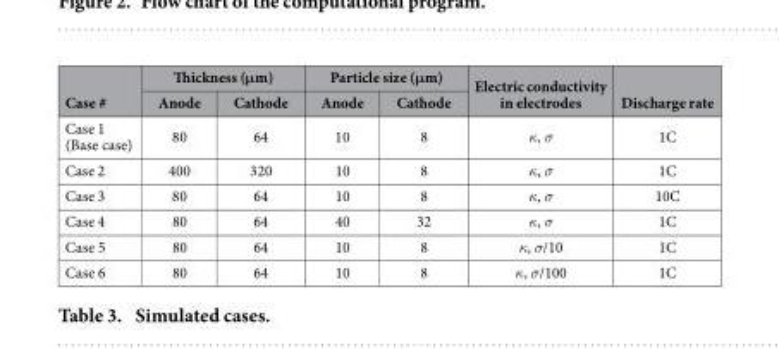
<table><thead><tr><td rowspan="2">Case #</td><td colspan="2">Thickness (μm)</td><td colspan="2">Particle size (μm)</td><td rowspan="2">Electric conductivity in electrodes</td><td rowspan="2">Discharge rate</td></tr><tr><td>Anode</td><td>Cathode</td><td>Anode</td><td>Cathode</td></tr></thead><tbody><tr><td>Case 1 (Base case)</td><td>80</td><td>64</td><td>10</td><td>8</td><td>κ, σ</td><td>1C</td></tr><tr><td>Case 2</td><td>400</td><td>320</td><td>10</td><td>8</td><td>κ, σ</td><td>1C</td></tr><tr><td>Case 3</td><td>80</td><td>64</td><td>10</td><td>8</td><td>κ, σ</td><td>10C</td></tr><tr><td>Case 4</td><td>80</td><td>64</td><td>40</td><td>32</td><td>κ, σ</td><td>1C</td></tr><tr><td>Case 5</td><td>80</td><td>64</td><td>10</td><td>8</td><td>κ, σ/10</td><td>1C</td></tr><tr><td>Case 6</td><td>80</td><td>64</td><td>10</td><td>8</td><td>κ, σ/100</td><td>1C</td></tr></tbody></table>